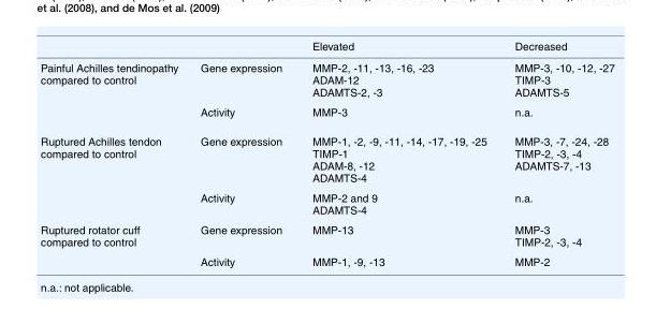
<table><thead><tr><td></td><td></td><td>Elevated</td><td>Decreased</td></tr></thead><tbody><tr><td rowspan="2">Painful Achilles tendinopathy compared to control</td><td>Gene expression</td><td>MMP-2, -11, -13, -16, -23 ADAM-12 ADAMTS-2, -3</td><td>MMP-3, -10, -12, -27 TIMP-3 ADAMTS-5</td></tr><tr><td>Activity</td><td>MMP-3</td><td>n.a.</td></tr><tr><td rowspan="2">Ruptured Achilles tendon compared to control</td><td>Gene expression</td><td>MMP-1, -2, -9, -11, -14, -17, -19, -25 TIMP-1 ADAM-8, -12 ADAMTS-4</td><td>MMP-3, -7, -24, -28 TIMP-2, -3, -4 ADAMTS-7, -13</td></tr><tr><td>Activity</td><td>MMP-2 and 9 ADAMTS-4</td><td>n.a.</td></tr><tr><td rowspan="2">Ruptured rotator cuff compared to control</td><td>Gene expression</td><td>MMP-13</td><td>MMP-3 TIMP-2, -3, -4</td></tr><tr><td>Activity</td><td>MMP-1, -9, -13</td><td>MMP-2</td></tr></tbody></table>